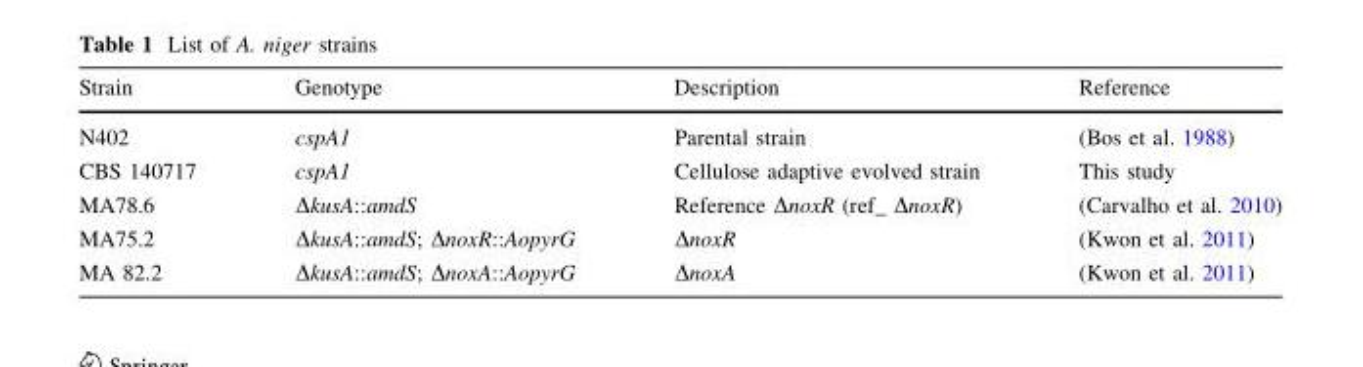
<table><thead><tr><td>Strain</td><td>Genotype</td><td>Description</td><td>Reference</td></tr></thead><tbody><tr><td>N402</td><td>cspA1</td><td>Parental strain</td><td>(Bos et al. 1988)</td></tr><tr><td>CBS 140717</td><td>cspA1</td><td>Cellulose adaptive evolved strain</td><td>This study</td></tr><tr><td>MA78.6</td><td>ΔkusA::amdS</td><td>Reference ΔnoxR (ref_ ΔnoxR)</td><td>(Carvalho et al. 2010)</td></tr><tr><td>MA75.2</td><td>ΔkusA::amdS; ΔnoxR::AopyrG</td><td>ΔnoxR</td><td>(Kwon et al. 2011)</td></tr><tr><td>MA 82.2</td><td>ΔkusA::amdS; ΔnoxA::AopyrG</td><td>ΔnoxA</td><td>(Kwon et al. 2011)</td></tr></tbody></table>